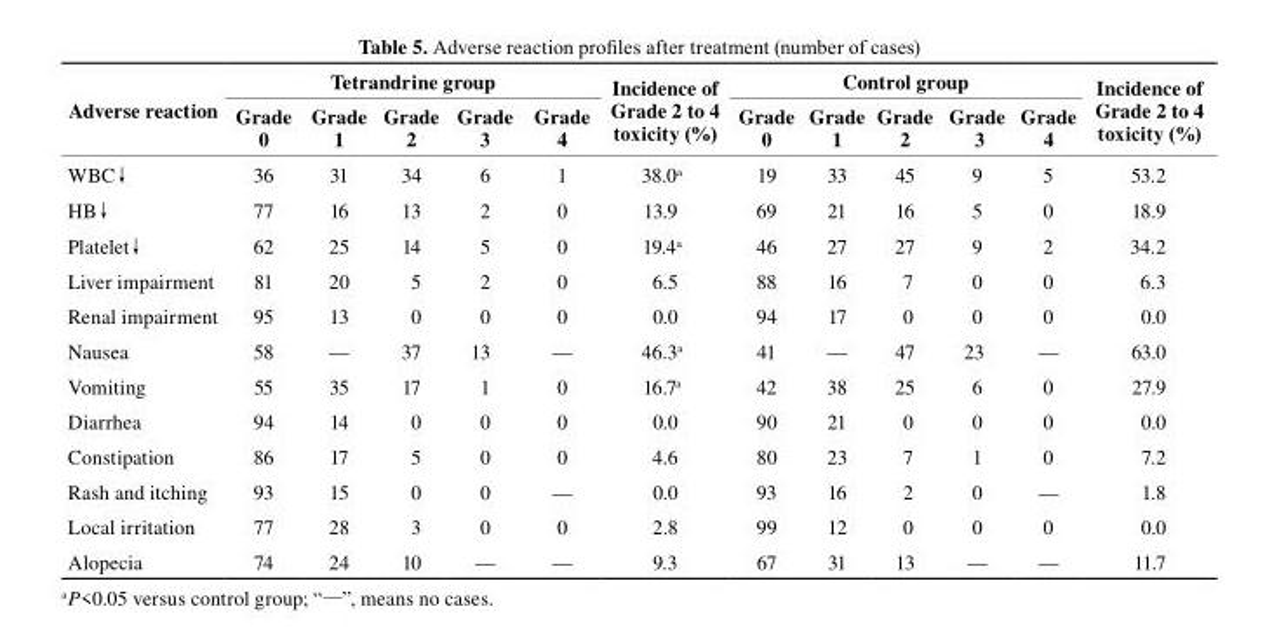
<table><thead><tr><td rowspan="2">Adverse reaction</td><td colspan="5">tetrandrine group</td><td rowspan="2">Incidence of Grade 2 to 4 toxicity (%)</td><td colspan="5">control group</td><td rowspan="2">Incidence of Grade 2 to 4 toxicity (%)</td></tr><tr><td>Grade 0</td><td>Grade 1</td><td>Grade 2</td><td>Grade 3</td><td>Grade 4</td><td>Grade 0</td><td>Grade 1</td><td>Grade 2</td><td>Grade 3</td><td>Grade 4</td></tr></thead><tbody><tr><td>WBC↓</td><td>36</td><td>31</td><td>34</td><td>6</td><td>1</td><td>38.0<sup>a</sup></td><td>19</td><td>33</td><td>45</td><td>9</td><td>5</td><td>53.2</td></tr><tr><td>HB↓</td><td>77</td><td>16</td><td>13</td><td>2</td><td>0</td><td>13.9</td><td>69</td><td>21</td><td>16</td><td>5</td><td>0</td><td>18.9</td></tr><tr><td>Platelet↓</td><td>62</td><td>25</td><td>14</td><td>5</td><td>0</td><td>19.4<sup>a</sup></td><td>46</td><td>27</td><td>27</td><td>9</td><td>2</td><td>34.2</td></tr><tr><td>Liver impairment</td><td>81</td><td>20</td><td>5</td><td>2</td><td>0</td><td>6.5</td><td>88</td><td>16</td><td>7</td><td>0</td><td>0</td><td>6.3</td></tr><tr><td>Renal impairment</td><td>95</td><td>13</td><td>0</td><td>0</td><td>0</td><td>0.0</td><td>94</td><td>17</td><td>0</td><td>0</td><td>0</td><td>0.0</td></tr><tr><td>Nausea</td><td>58</td><td>—</td><td>37</td><td>13</td><td>—</td><td>46.3<sup>a</sup></td><td>41</td><td>—</td><td>47</td><td>23</td><td>—</td><td>63.0</td></tr><tr><td>Vomiting</td><td>55</td><td>35</td><td>17</td><td>1</td><td>0</td><td>16.7<sup>a</sup></td><td>42</td><td>38</td><td>25</td><td>6</td><td>0</td><td>27.9</td></tr><tr><td>Diarrhea</td><td>94</td><td>14</td><td>0</td><td>0</td><td>0</td><td>0.0</td><td>90</td><td>21</td><td>0</td><td>0</td><td>0</td><td>0.0</td></tr><tr><td>Constipation</td><td>86</td><td>17</td><td>5</td><td>0</td><td>0</td><td>4.6</td><td>80</td><td>23</td><td>7</td><td>1</td><td>0</td><td>7.2</td></tr><tr><td>Rash and itching</td><td>93</td><td>15</td><td>0</td><td>0</td><td>—</td><td>0.0</td><td>93</td><td>16</td><td>2</td><td>0</td><td>—</td><td>1.8</td></tr><tr><td>Local irritation</td><td>77</td><td>28</td><td>3</td><td>0</td><td>0</td><td>2.8</td><td>99</td><td>12</td><td>0</td><td>0</td><td>0</td><td>0.0</td></tr><tr><td>Alopecia</td><td>74</td><td>24</td><td>10</td><td>—</td><td>—</td><td>9.3</td><td>67</td><td>31</td><td>13</td><td>—</td><td>—</td><td>11.7</td></tr></tbody></table>